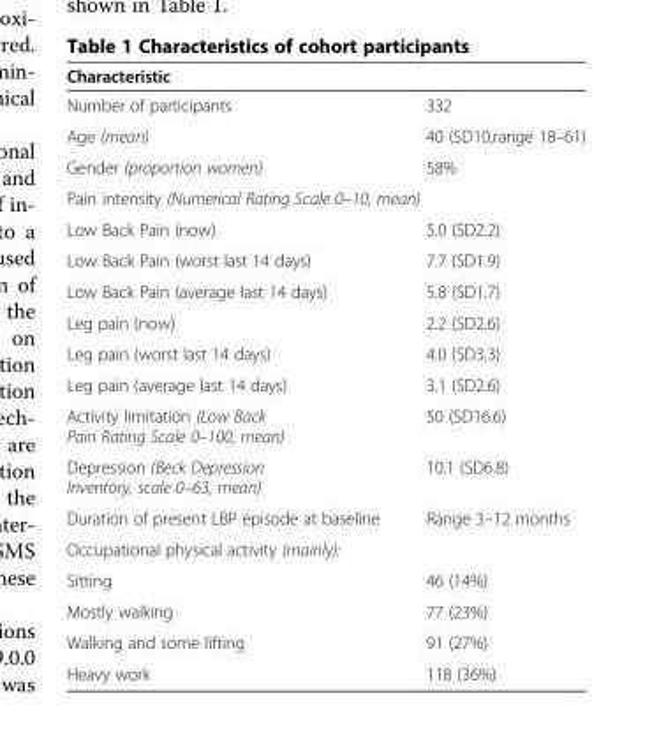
<table><thead><tr><td>Characteristic</td><td></td></tr></thead><tbody><tr><td>Number of participants</td><td>332</td></tr><tr><td>Age (mean)</td><td>40 (SD10,range 18–61)</td></tr><tr><td>Gender (proportion women)</td><td>58%</td></tr><tr><td colspan="2">Pain intensity (Numerical Rating Scale 0–10, mean)</td></tr><tr><td>Low Back Pain (now)</td><td>5.0 (SD2.2)</td></tr><tr><td>Low Back Pain (worst last 14 days)</td><td>7.7 (SD1.9)</td></tr><tr><td>Low Back Pain (average last 14 days)</td><td>5.8 (SD1.7)</td></tr><tr><td>Leg pain (now)</td><td>2.2 (SD2.6)</td></tr><tr><td>Leg pain (worst last 14 days)</td><td>4.0 (SD3.3)</td></tr><tr><td>Leg pain (average last 14 days)</td><td>3.1 (SD2.6)</td></tr><tr><td>Activity limitation (Low Back Pain Rating Scale 0–100, mean)</td><td>50 (SD16.6)</td></tr><tr><td>Depression (Beck Depression Inventory, scale 0–63, mean)</td><td>10.1 (SD6.8)</td></tr><tr><td>Duration of present LBP episode at baseline</td><td>Range 3–12 months</td></tr><tr><td colspan="2">Occupational physical activity (mainly):</td></tr><tr><td>Sitting</td><td>46 (14%)</td></tr><tr><td>Mostly walking</td><td>77 (23%)</td></tr><tr><td>Walking and some lifting</td><td>91 (27%)</td></tr><tr><td>Heavy work</td><td>118 (36%)</td></tr></tbody></table>